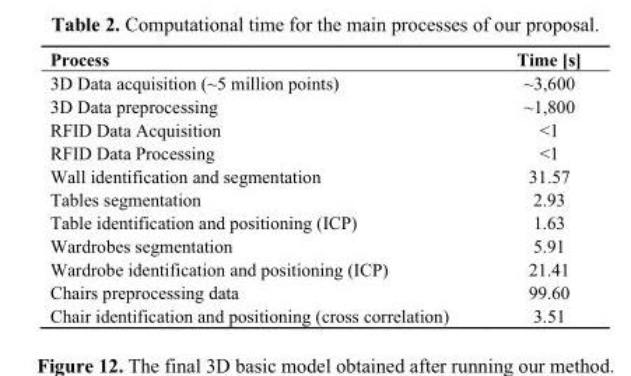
<table><thead><tr><td>Process</td><td>Time [s]</td></tr></thead><tbody><tr><td>3D Data acquisition (~5 million points)</td><td>~3,600</td></tr><tr><td>3D Data preprocessing</td><td>~1,800</td></tr><tr><td>RFID Data Acquisition</td><td>&lt;1</td></tr><tr><td>RFID Data Processing</td><td>&lt;1</td></tr><tr><td>Wall identification and segmentation</td><td>31.57</td></tr><tr><td>Tables segmentation</td><td>2.93</td></tr><tr><td>Table identification and positioning (ICP)</td><td>1.63</td></tr><tr><td>Wardrobes segmentation</td><td>5.91</td></tr><tr><td>Wardrobe identification and positioning (ICP)</td><td>21.41</td></tr><tr><td>Chairs preprocessing data</td><td>99.60</td></tr><tr><td>Chair identification and positioning (cross correlation)</td><td>3.51</td></tr></tbody></table>